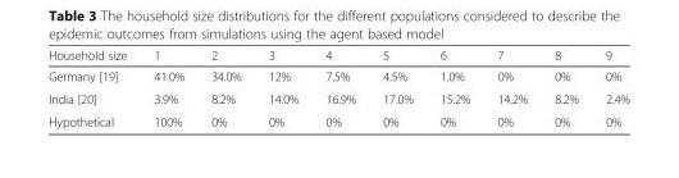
<table><thead><tr><td>Household size</td><td>1</td><td>2</td><td>3</td><td>4</td><td>5</td><td>6</td><td>7</td><td>8</td><td>9</td></tr></thead><tbody><tr><td>Germany [19]</td><td>41.0%</td><td>34.0%</td><td>12%</td><td>7.5%</td><td>4.5%</td><td>1.0%</td><td>0%</td><td>0%</td><td>0%</td></tr><tr><td>India [20]</td><td>3.9%</td><td>8.2%</td><td>14.0%</td><td>16.9%</td><td>17.0%</td><td>15.2%</td><td>14.2%</td><td>8.2%</td><td>2.4%</td></tr><tr><td>Hypothetical</td><td>100%</td><td>0%</td><td>0%</td><td>0%</td><td>0%</td><td>0%</td><td>0%</td><td>0%</td><td>0%</td></tr></tbody></table>